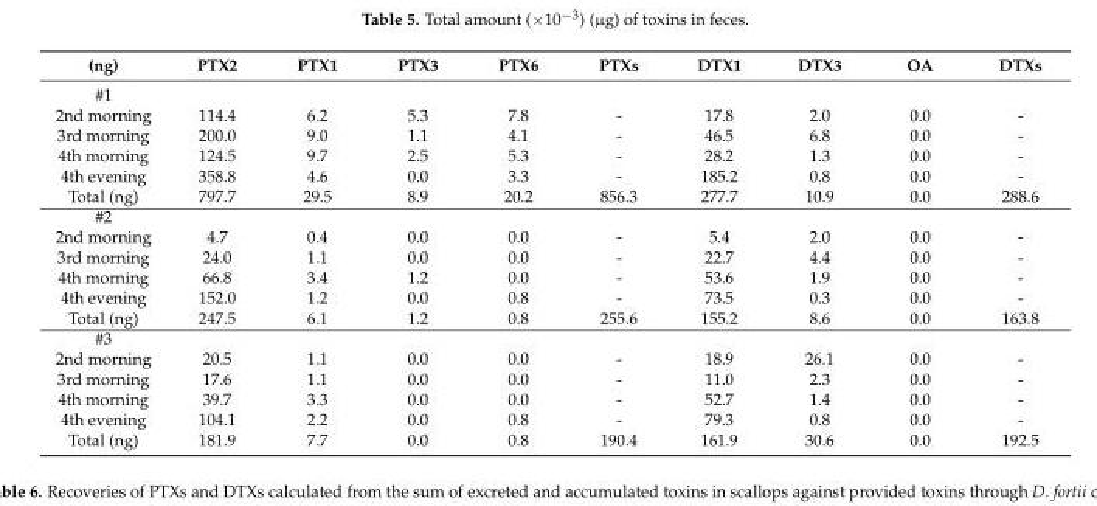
<table><thead><tr><td>(ng)</td><td>PTX2</td><td>PTX1</td><td>PTX3</td><td>PTX6</td><td>PTXs</td><td>DTX1</td><td>DTX3</td><td>OA</td><td>DTXs</td></tr></thead><tbody><tr><td colspan="10">#1</td></tr><tr><td>2nd morning</td><td>114.4</td><td>6.2</td><td>5.3</td><td>7.8</td><td>-</td><td>17.8</td><td>2.0</td><td>0.0</td><td>-</td></tr><tr><td>3rd morning</td><td>200.0</td><td>9.0</td><td>1.1</td><td>4.1</td><td>-</td><td>46.5</td><td>6.8</td><td>0.0</td><td>-</td></tr><tr><td>4th morning</td><td>124.5</td><td>9.7</td><td>2.5</td><td>5.3</td><td>-</td><td>28.2</td><td>1.3</td><td>0.0</td><td>-</td></tr><tr><td>4th evening</td><td>358.8</td><td>4.6</td><td>0.0</td><td>3.3</td><td>-</td><td>185.2</td><td>0.8</td><td>0.0</td><td>-</td></tr><tr><td>Total (ng)</td><td>797.7</td><td>29.5</td><td>8.9</td><td>20.2</td><td>856.3</td><td>277.7</td><td>10.9</td><td>0.0</td><td>288.6</td></tr><tr><td colspan="10">#2</td></tr><tr><td>2nd morning</td><td>4.7</td><td>0.4</td><td>0.0</td><td>0.0</td><td>-</td><td>5.4</td><td>2.0</td><td>0.0</td><td>-</td></tr><tr><td>3rd morning</td><td>24.0</td><td>1.1</td><td>0.0</td><td>0.0</td><td>-</td><td>22.7</td><td>4.4</td><td>0.0</td><td>-</td></tr><tr><td>4th morning</td><td>66.8</td><td>3.4</td><td>1.2</td><td>0.0</td><td>-</td><td>53.6</td><td>1.9</td><td>0.0</td><td>-</td></tr><tr><td>4th evening</td><td>152.0</td><td>1.2</td><td>0.0</td><td>0.8</td><td>-</td><td>73.5</td><td>0.3</td><td>0.0</td><td>-</td></tr><tr><td>Total (ng)</td><td>247.5</td><td>6.1</td><td>1.2</td><td>0.8</td><td>255.6</td><td>155.2</td><td>8.6</td><td>0.0</td><td>163.8</td></tr><tr><td colspan="10">#3</td></tr><tr><td>2nd morning</td><td>20.5</td><td>1.1</td><td>0.0</td><td>0.0</td><td>-</td><td>18.9</td><td>26.1</td><td>0.0</td><td>-</td></tr><tr><td>3rd morning</td><td>17.6</td><td>1.1</td><td>0.0</td><td>0.0</td><td>-</td><td>11.0</td><td>2.3</td><td>0.0</td><td>-</td></tr><tr><td>4th morning</td><td>39.7</td><td>3.3</td><td>0.0</td><td>0.0</td><td>-</td><td>52.7</td><td>1.4</td><td>0.0</td><td>-</td></tr><tr><td>4th evening</td><td>104.1</td><td>2.2</td><td>0.0</td><td>0.8</td><td>-</td><td>79.3</td><td>0.8</td><td>0.0</td><td>-</td></tr><tr><td>Total (ng)</td><td>181.9</td><td>7.7</td><td>0.0</td><td>0.8</td><td>190.4</td><td>161.9</td><td>30.6</td><td>0.0</td><td>192.5</td></tr></tbody></table>